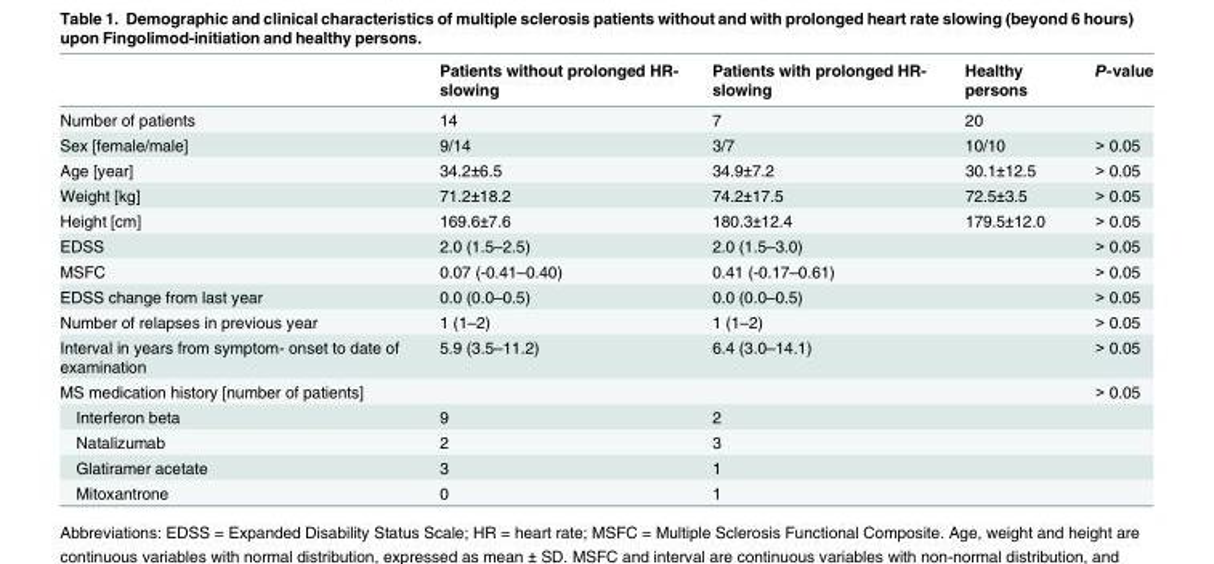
<table><thead><tr><td></td><td>Patients without prolonged HR- slowing</td><td>Patients with prolonged HR- slowing</td><td>Healthy persons</td><td>P-value</td></tr></thead><tbody><tr><td>Number of patients</td><td>14</td><td>7</td><td>20</td><td></td></tr><tr><td>Sex [female/male]</td><td>9/14</td><td>3/7</td><td>10/10</td><td>&gt; 0.05</td></tr><tr><td>Age [year]</td><td>34.2±6.5</td><td>34.9±7.2</td><td>30.1±12.5</td><td>&gt; 0.05</td></tr><tr><td>Weight [kg]</td><td>71.2±18.2</td><td>74.2±17.5</td><td>72.5±3.5</td><td>&gt; 0.05</td></tr><tr><td>Height [cm]</td><td>169.6±7.6</td><td>180.3±12.4</td><td>179.5±12.0</td><td>&gt; 0.05</td></tr><tr><td>EDSS</td><td>2.0 (1.5–2.5)</td><td>2.0 (1.5–3.0)</td><td></td><td>&gt; 0.05</td></tr><tr><td>MSFC</td><td>0.07 (-0.41–0.40)</td><td>0.41 (-0.17–0.61)</td><td></td><td>&gt; 0.05</td></tr><tr><td>EDSS change from last year</td><td>0.0 (0.0–0.5)</td><td>0.0 (0.0–0.5)</td><td></td><td>&gt; 0.05</td></tr><tr><td>Number of relapses in previous year</td><td>1 (1–2)</td><td>1 (1–2)</td><td></td><td>&gt; 0.05</td></tr><tr><td>Interval in years from symptom- onset to date of examination</td><td>5.9 (3.5–11.2)</td><td>6.4 (3.0–14.1)</td><td></td><td>&gt; 0.05</td></tr><tr><td>MS medication history [number of patients]</td><td></td><td></td><td></td><td>&gt; 0.05</td></tr><tr><td>Interferon beta</td><td>9</td><td>2</td><td></td><td></td></tr><tr><td>Natalizumab</td><td>2</td><td>3</td><td></td><td></td></tr><tr><td>Glatiramer acetate</td><td>3</td><td>1</td><td></td><td></td></tr><tr><td>Mitoxantrone</td><td>0</td><td>1</td><td></td><td></td></tr></tbody></table>